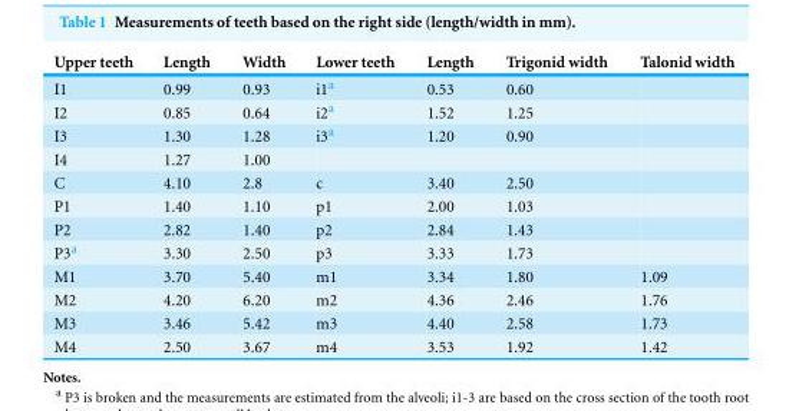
<table><thead><tr><td>Upper teeth</td><td>Length</td><td>Width</td><td>Lower teeth</td><td>Length</td><td>Trigonid width</td><td>Talonid width</td></tr></thead><tbody><tr><td>I1</td><td>0.99</td><td>0.93</td><td>i1<sup>a</sup></td><td>0.53</td><td>0.60</td><td></td></tr><tr><td>I2</td><td>0.85</td><td>0.64</td><td>i2<sup>a</sup></td><td>1.52</td><td>1.25</td><td></td></tr><tr><td>I3</td><td>1.30</td><td>1.28</td><td>i3<sup>a</sup></td><td>1.20</td><td>0.90</td><td></td></tr><tr><td>I4</td><td>1.27</td><td>1.00</td><td></td><td></td><td></td><td></td></tr><tr><td>C</td><td>4.10</td><td>2.8</td><td>c</td><td>3.40</td><td>2.50</td><td></td></tr><tr><td>P1</td><td>1.40</td><td>1.10</td><td>p1</td><td>2.00</td><td>1.03</td><td></td></tr><tr><td>P2</td><td>2.82</td><td>1.40</td><td>p2</td><td>2.84</td><td>1.43</td><td></td></tr><tr><td>P3<sup>a</sup></td><td>3.30</td><td>2.50</td><td>p3</td><td>3.33</td><td>1.73</td><td></td></tr><tr><td>M1</td><td>3.70</td><td>5.40</td><td>m1</td><td>3.34</td><td>1.80</td><td>1.09</td></tr><tr><td>M2</td><td>4.20</td><td>6.20</td><td>m2</td><td>4.36</td><td>2.46</td><td>1.76</td></tr><tr><td>M3</td><td>3.46</td><td>5.42</td><td>m3</td><td>4.40</td><td>2.58</td><td>1.73</td></tr><tr><td>M4</td><td>2.50</td><td>3.67</td><td>m4</td><td>3.53</td><td>1.92</td><td>1.42</td></tr></tbody></table>